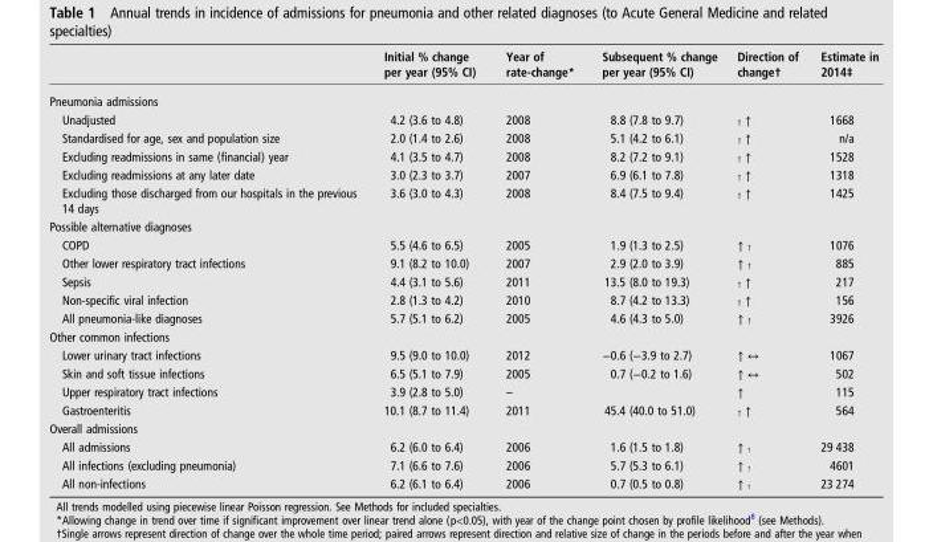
<table><thead><tr><td></td><td>Initial % change per year (95% CI)</td><td>Year of rate-change*</td><td>Subsequent % change per year (95% CI)</td><td>Direction of change†</td><td>Estimate in 2014‡</td></tr></thead><tbody><tr><td colspan="6">Pneumonia admissions</td></tr><tr><td>Unadjusted</td><td>4.2 (3.6 to 4.8)</td><td>2008</td><td>8.8 (7.8 to 9.7)</td><td>↑ ↑</td><td>1668</td></tr><tr><td>Standardised for age, sex and population size</td><td>2.0 (1.4 to 2.6)</td><td>2008</td><td>5.1 (4.2 to 6.1)</td><td>↑ ↑</td><td>n/a</td></tr><tr><td>Excluding readmissions in same (financial) year</td><td>4.1 (3.5 to 4.7)</td><td>2008</td><td>8.2 (7.2 to 9.1)</td><td>↑ ↑</td><td>1528</td></tr><tr><td>Excluding readmissions at any later date</td><td>3.0 (2.3 to 3.7)</td><td>2007</td><td>6.9 (6.1 to 7.8)</td><td>↑ ↑</td><td>1318</td></tr><tr><td>Excluding those discharged from our hospitals in the previous 14 days</td><td>3.6 (3.0 to 4.3)</td><td>2008</td><td>8.4 (7.5 to 9.4)</td><td>↑ ↑</td><td>1425</td></tr><tr><td colspan="6">Possible alternative diagnoses</td></tr><tr><td>COPD</td><td>5.5 (4.6 to 6.5)</td><td>2005</td><td>1.9 (1.3 to 2.5)</td><td>↑ ↑</td><td>1076</td></tr><tr><td>Other lower respiratory tract infections</td><td>9.1 (8.2 to 10.0)</td><td>2007</td><td>2.9 (2.0 to 3.9)</td><td>↑ ↑</td><td>885</td></tr><tr><td>Sepsis</td><td>4.4 (3.1 to 5.6)</td><td>2011</td><td>13.5 (8.0 to 19.3)</td><td>↑ ↑</td><td>217</td></tr><tr><td>Non-specific viral infection</td><td>2.8 (1.3 to 4.2)</td><td>2010</td><td>8.7 (4.2 to 13.3)</td><td>↑ ↑</td><td>156</td></tr><tr><td>All pneumonia-like diagnoses</td><td>5.7 (5.1 to 6.2)</td><td>2005</td><td>4.6 (4.3 to 5.0)</td><td>↑ ↑</td><td>3926</td></tr><tr><td colspan="6">Other common infections</td></tr><tr><td>Lower urinary tract infections</td><td>9.5 (9.0 to 10.0)</td><td>2012</td><td>−0.6 (−3.9 to 2.7)</td><td>↑ ↔</td><td>1067</td></tr><tr><td>Skin and soft tissue infections</td><td>6.5 (5.1 to 7.9)</td><td>2005</td><td>0.7 (−0.2 to 1.6)</td><td>↑ ↔</td><td>502</td></tr><tr><td>Upper respiratory tract infections</td><td>3.9 (2.8 to 5.0)</td><td>–</td><td></td><td>↑</td><td>115</td></tr><tr><td>Gastroenteritis</td><td>10.1 (8.7 to 11.4)</td><td>2011</td><td>45.4 (40.0 to 51.0)</td><td>↑ ↑</td><td>564</td></tr><tr><td colspan="6">Overall admissions</td></tr><tr><td>All admissions</td><td>6.2 (6.0 to 6.4)</td><td>2006</td><td>1.6 (1.5 to 1.8)</td><td>↑ ↑</td><td>29 438</td></tr><tr><td>All infections (excluding pneumonia)</td><td>7.1 (6.6 to 7.6)</td><td>2006</td><td>5.7 (5.3 to 6.1)</td><td>↑ ↑</td><td>4601</td></tr><tr><td>All non-infections</td><td>6.2 (6.1 to 6.4)</td><td>2006</td><td>0.7 (0.5 to 0.8)</td><td>↑ ↑</td><td>23 274</td></tr></tbody></table>